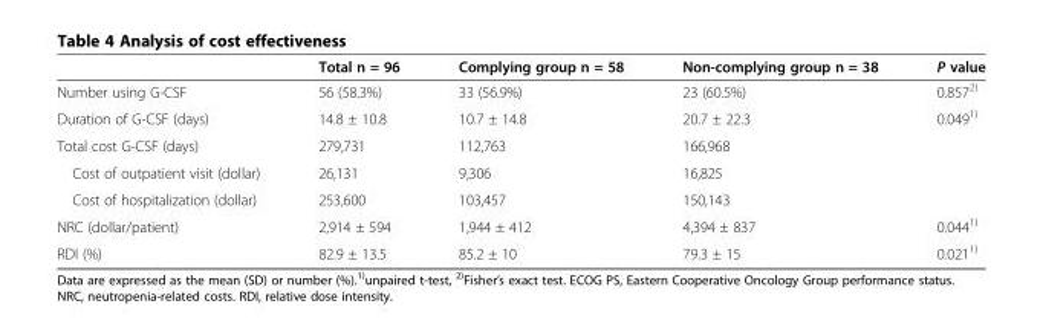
<table><thead><tr><td></td><td>Total n = 96</td><td>Complying group n = 58</td><td>Non-complying group n = 38</td><td>P value</td></tr></thead><tbody><tr><td>Number using G-CSF</td><td>56 (58.3%)</td><td>33 (56.9%)</td><td>23 (60.5%)</td><td>0.857<sup>2)</sup></td></tr><tr><td>Duration of G-CSF (days)</td><td>14.8 ± 10.8</td><td>10.7 ± 14.8</td><td>20.7 ± 22.3</td><td>0.049<sup>1)</sup></td></tr><tr><td>Total cost G-CSF (days)</td><td>279,731</td><td>112,763</td><td>166,968</td><td></td></tr><tr><td>Cost of outpatient visit (dollar)</td><td>26,131</td><td>9,306</td><td>16,825</td><td></td></tr><tr><td>Cost of hospitalization (dollar)</td><td>253,600</td><td>103,457</td><td>150,143</td><td></td></tr><tr><td>NRC (dollar/patient)</td><td>2,914 ± 594</td><td>1,944 ± 412</td><td>4,394 ± 837</td><td>0.044<sup>1)</sup></td></tr><tr><td>RDI (%)</td><td>82.9 ± 13.5</td><td>85.2 ± 10</td><td>79.3 ± 15</td><td>0.021<sup>1)</sup></td></tr></tbody></table>